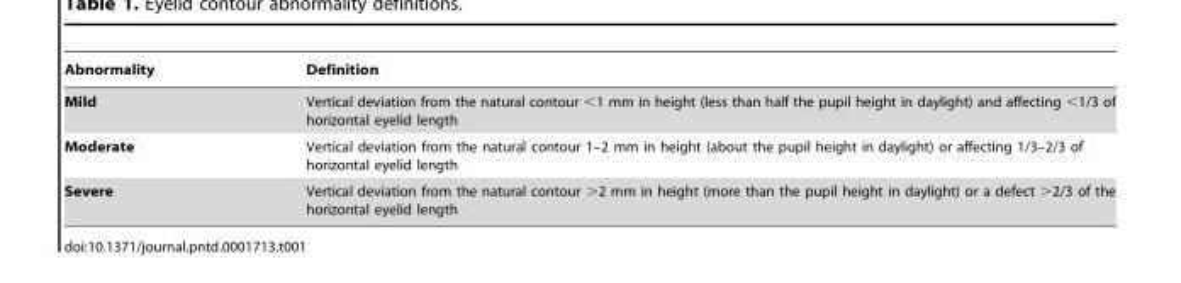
<table><thead><tr><td>Abnormality</td><td>Definition</td></tr></thead><tbody><tr><td>Mild</td><td>Vertical deviation from the natural contour &lt;1 mm in height (less than half the pupil height in daylight) and affecting &lt;1/3 of horizontal eyelid length</td></tr><tr><td>Moderate</td><td>Vertical deviation from the natural contour 1–2 mm in height (about the pupil height in daylight) or affecting 1/3–2/3 of horizontal eyelid length</td></tr><tr><td>Severe</td><td>Vertical deviation from the natural contour &gt;2 mm in height (more than the pupil height in daylight) or a defect &gt;2/3 of the horizontal eyelid length</td></tr></tbody></table>